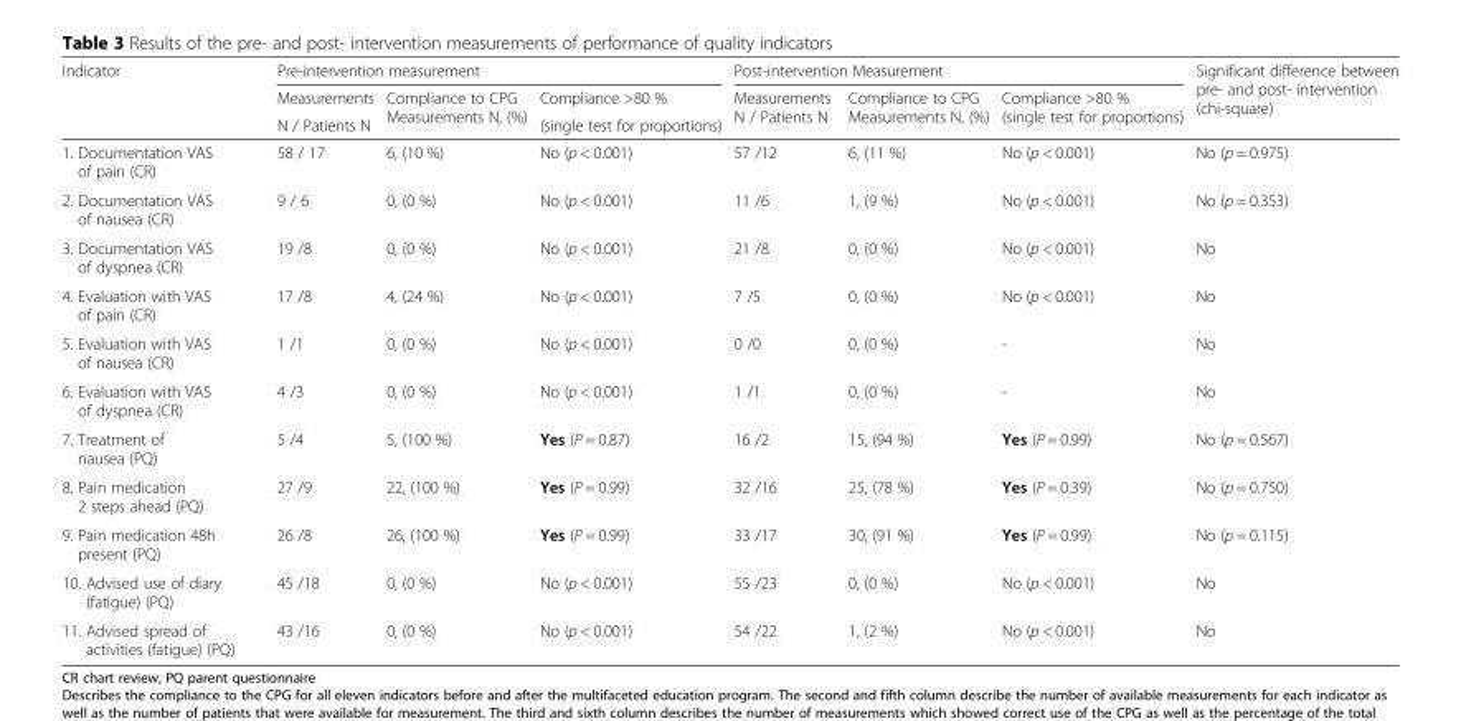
<table><thead><tr><td rowspan="3">Indicator</td><td colspan="3">Pre-intervention measurement</td><td colspan="3">Post-intervention Measurement</td><td rowspan="3">Significant difference between pre- and post- intervention (chi-square)</td></tr><tr><td rowspan="2">Measurements N / Patients N</td><td rowspan="2">Compliance to CPG Measurements N, (%)</td><td rowspan="2">Compliance &gt;80 % (single test for proportions)</td><td rowspan="2">Measurements N / Patients N</td><td rowspan="2">Compliance to CPG Measurements N, (%)</td><td rowspan="2">Compliance &gt;80 % (single test for proportions)</td></tr><tr></tr></thead><tbody><tr><td>1. Documentation VAS of pain (CR)</td><td>58 / 17</td><td>6, (10 %)</td><td>No (p &lt; 0.001)</td><td>57 /12</td><td>6, (11 %)</td><td>No (p &lt; 0.001)</td><td>No (p = 0.975)</td></tr><tr><td>2. Documentation VAS of nausea (CR)</td><td>9 / 6</td><td>0, (0 %)</td><td>No (p &lt; 0.001)</td><td>11 /6</td><td>1, (9 %)</td><td>No (p &lt; 0.001)</td><td>No (p = 0.353)</td></tr><tr><td>3. Documentation VAS of dyspnea (CR)</td><td>19 /8</td><td>0, (0 %)</td><td>No (p &lt; 0.001)</td><td>21 /8</td><td>0, (0 %)</td><td>No (p &lt; 0.001)</td><td>No</td></tr><tr><td>4. Evaluation with VAS of pain (CR)</td><td>17 /8</td><td>4, (24 %)</td><td>No (p &lt; 0.001)</td><td>7 /5</td><td>0, (0 %)</td><td>No (p &lt; 0.001)</td><td>No</td></tr><tr><td>5. Evaluation with VAS of nausea (CR)</td><td>1 /1</td><td>0, (0 %)</td><td>No (p &lt; 0.001)</td><td>0 /0</td><td>0, (0 %)</td><td>-</td><td>No</td></tr><tr><td>6. Evaluation with VAS of dyspnea (CR)</td><td>4 /3</td><td>0, (0 %)</td><td>No (p &lt; 0.001)</td><td>1 /1</td><td>0, (0 %)</td><td>-</td><td>No</td></tr><tr><td>7. Treatment of nausea (PQ)</td><td>5 /4</td><td>5, (100 %)</td><td>Yes (P = 0.87)</td><td>16 /2</td><td>15, (94 %)</td><td>Yes (P = 0.99)</td><td>No (p = 0.567)</td></tr><tr><td>8. Pain medication 2 steps ahead (PQ)</td><td>27 /9</td><td>22, (100 %)</td><td>Yes (P = 0.99)</td><td>32 /16</td><td>25, (78 %)</td><td>Yes (P = 0.39)</td><td>No (p = 0.750)</td></tr><tr><td>9. Pain medication 48h present (PQ)</td><td>26 /8</td><td>26, (100 %)</td><td>Yes (P = 0.99)</td><td>33 /17</td><td>30, (91 %)</td><td>Yes (P = 0.99)</td><td>No (p = 0.115)</td></tr><tr><td>10. Advised use of diary (fatigue) (PQ)</td><td>45 /18</td><td>0, (0 %)</td><td>No (p &lt; 0.001)</td><td>55 /23</td><td>0, (0 %)</td><td>No (p &lt; 0.001)</td><td>No</td></tr><tr><td>11. Advised spread of activities (fatigue) (PQ)</td><td>43 /16</td><td>0, (0 %)</td><td>No (p &lt; 0.001)</td><td>54 /22</td><td>1, (2 %)</td><td>No (p &lt; 0.001)</td><td>No</td></tr></tbody></table>